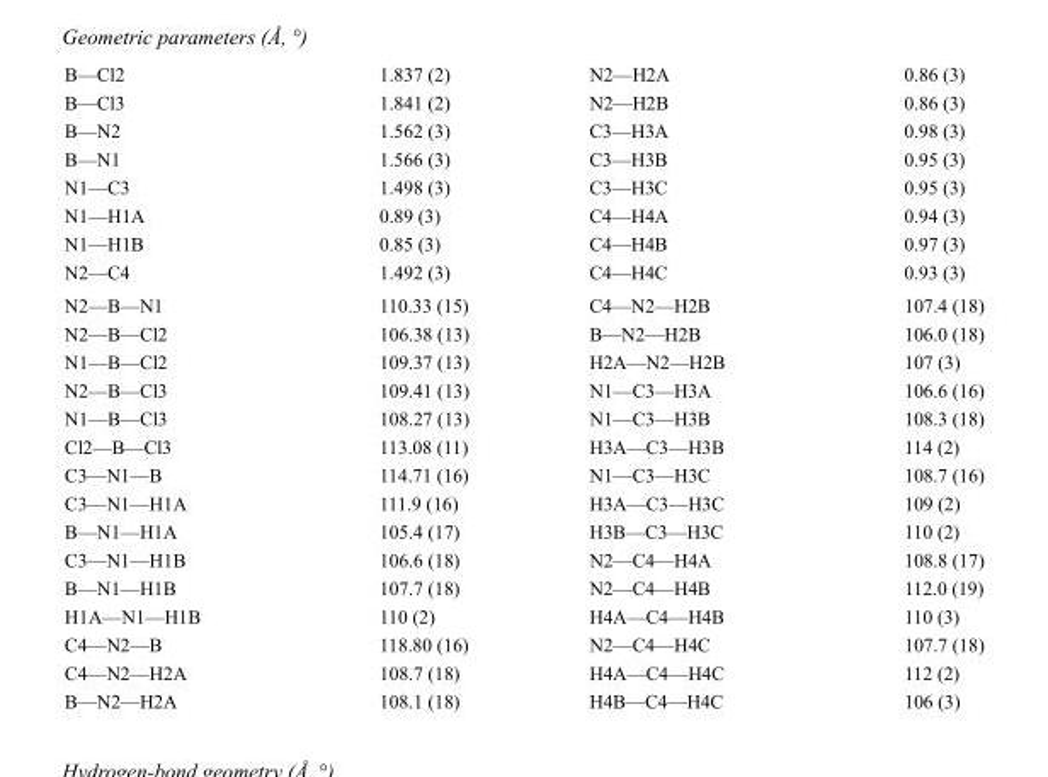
<table><tbody><tr><td>B—Cl2</td><td>1.837 (2)</td><td>N2—H2A</td><td>0.86 (3)</td></tr><tr><td>B—Cl3</td><td>1.841 (2)</td><td>N2—H2B</td><td>0.86 (3)</td></tr><tr><td>B—N2</td><td>1.562 (3)</td><td>C3—H3A</td><td>0.98 (3)</td></tr><tr><td>B—N1</td><td>1.566 (3)</td><td>C3—H3B</td><td>0.95 (3)</td></tr><tr><td>N1—C3</td><td>1.498 (3)</td><td>C3—H3C</td><td>0.95 (3)</td></tr><tr><td>N1—H1A</td><td>0.89 (3)</td><td>C4—H4A</td><td>0.94 (3)</td></tr><tr><td>N1—H1B</td><td>0.85 (3)</td><td>C4—H4B</td><td>0.97 (3)</td></tr><tr><td>N2—C4</td><td>1.492 (3)</td><td>C4—H4C</td><td>0.93 (3)</td></tr><tr><td>N2—B—N1</td><td>110.33 (15)</td><td>C4—N2—H2B</td><td>107.4 (18)</td></tr><tr><td>N2—B—Cl2</td><td>106.38 (13)</td><td>B—N2—H2B</td><td>106.0 (18)</td></tr><tr><td>N1—B—Cl2</td><td>109.37 (13)</td><td>H2A—N2—H2B</td><td>107 (3)</td></tr><tr><td>N2—B—Cl3</td><td>109.41 (13)</td><td>N1—C3—H3A</td><td>106.6 (16)</td></tr><tr><td>N1—B—Cl3</td><td>108.27 (13)</td><td>N1—C3—H3B</td><td>108.3 (18)</td></tr><tr><td>Cl2—B—Cl3</td><td>113.08 (11)</td><td>H3A—C3—H3B</td><td>114 (2)</td></tr><tr><td>C3—N1—B</td><td>114.71 (16)</td><td>N1—C3—H3C</td><td>108.7 (16)</td></tr><tr><td>C3—N1—H1A</td><td>111.9 (16)</td><td>H3A—C3—H3C</td><td>109 (2)</td></tr><tr><td>B—N1—H1A</td><td>105.4 (17)</td><td>H3B—C3—H3C</td><td>110 (2)</td></tr><tr><td>C3—N1—H1B</td><td>106.6 (18)</td><td>N2—C4—H4A</td><td>108.8 (17)</td></tr><tr><td>B—N1—H1B</td><td>107.7 (18)</td><td>N2—C4—H4B</td><td>112.0 (19)</td></tr><tr><td>H1A—N1—H1B</td><td>110 (2)</td><td>H4A—C4—H4B</td><td>110 (3)</td></tr><tr><td>C4—N2—B</td><td>118.80 (16)</td><td>N2—C4—H4C</td><td>107.7 (18)</td></tr><tr><td>C4—N2—H2A</td><td>108.7 (18)</td><td>H4A—C4—H4C</td><td>112 (2)</td></tr><tr><td>B—N2—H2A</td><td>108.1 (18)</td><td>H4B—C4—H4C</td><td>106 (3)</td></tr></tbody></table>